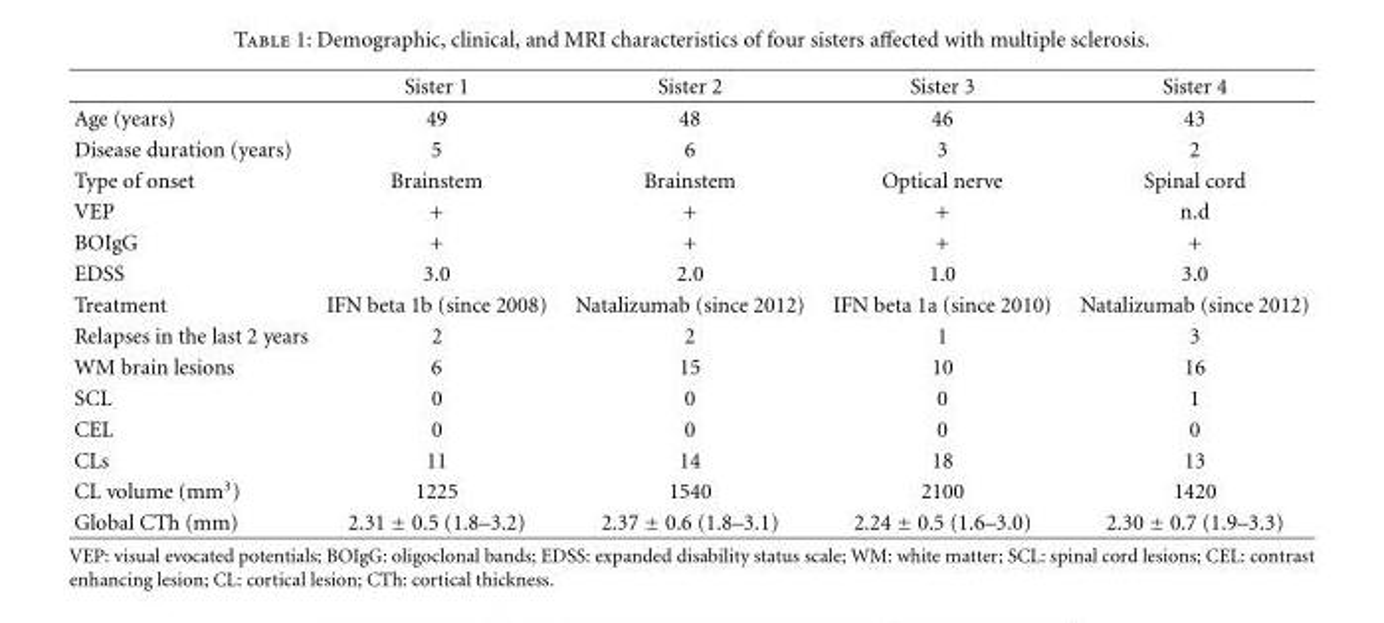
<table><thead><tr><td></td><td>Sister 1</td><td>Sister 2</td><td>Sister 3</td><td>Sister 4</td></tr></thead><tbody><tr><td>Age (years)</td><td>49</td><td>48</td><td>46</td><td>43</td></tr><tr><td>Disease duration (years)</td><td>5</td><td>6</td><td>3</td><td>2</td></tr><tr><td>Type of onset</td><td>Brainstem</td><td>Brainstem</td><td>Optical nerve</td><td>Spinal cord</td></tr><tr><td>VEP</td><td>+</td><td>+</td><td>+</td><td>n.d</td></tr><tr><td>BOIgG</td><td>+</td><td>+</td><td>+</td><td>+</td></tr><tr><td>EDSS</td><td>3.0</td><td>2.0</td><td>1.0</td><td>3.0</td></tr><tr><td>Treatment</td><td>IFN beta 1b (since 2008)</td><td>Natalizumab (since 2012)</td><td>IFN beta 1a (since 2010)</td><td>Natalizumab (since 2012)</td></tr><tr><td>Relapses in the last 2 years</td><td>2</td><td>2</td><td>1</td><td>3</td></tr><tr><td>WM brain lesions</td><td>6</td><td>15</td><td>10</td><td>16</td></tr><tr><td>SCL</td><td>0</td><td>0</td><td>0</td><td>1</td></tr><tr><td>CEL</td><td>0</td><td>0</td><td>0</td><td>0</td></tr><tr><td>CLs</td><td>11</td><td>14</td><td>18</td><td>13</td></tr><tr><td>CL volume (mm<sup>3</sup>)</td><td>1225</td><td>1540</td><td>2100</td><td>1420</td></tr><tr><td>Global CTh (mm)</td><td>2.31 ± 0.5 (1.8–3.2)</td><td>2.37 ± 0.6 (1.8–3.1)</td><td>2.24 ± 0.5 (1.6–3.0)</td><td>2.30 ± 0.7 (1.9–3.3)</td></tr></tbody></table>